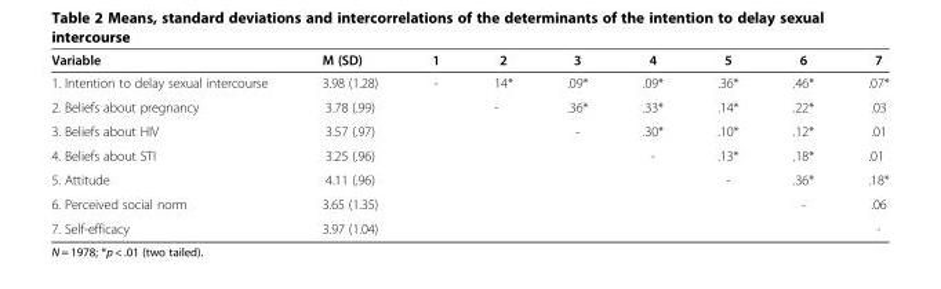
<table><thead><tr><td>Variable</td><td>M (SD)</td><td>1</td><td>2</td><td>3</td><td>4</td><td>5</td><td>6</td><td>7</td></tr></thead><tbody><tr><td>1. Intention to delay sexual intercourse</td><td>3.98 (1.28)</td><td>-</td><td>14*</td><td>.09*</td><td>.09*</td><td>.36*</td><td>.46*</td><td>.07*</td></tr><tr><td>2. Beliefs about pregnancy</td><td>3.78 (.99)</td><td></td><td>-</td><td>.36*</td><td>.33*</td><td>.14*</td><td>.22*</td><td>.03</td></tr><tr><td>3. Beliefs about HIV</td><td>3.57 (.97)</td><td></td><td></td><td>-</td><td>.30*</td><td>.10*</td><td>.12*</td><td>.01</td></tr><tr><td>4. Beliefs about STI</td><td>3.25 (.96)</td><td></td><td></td><td></td><td>-</td><td>.13*</td><td>.18*</td><td>.01</td></tr><tr><td>5. Attitude</td><td>4.11 (.96)</td><td></td><td></td><td></td><td></td><td>-</td><td>.36*</td><td>.18*</td></tr><tr><td>6. Perceived social norm</td><td>3.65 (1.35)</td><td></td><td></td><td></td><td></td><td></td><td>-</td><td>.06</td></tr><tr><td>7. Self-efficacy</td><td>3.97 (1.04)</td><td></td><td></td><td></td><td></td><td></td><td></td><td>-</td></tr></tbody></table>